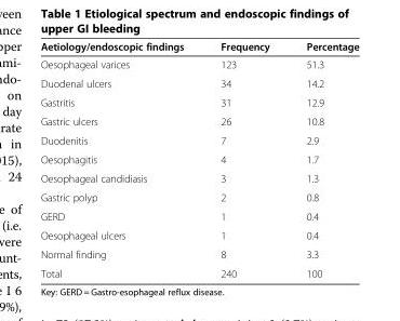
<table><thead><tr><td>Aetiology/endoscopic findings</td><td>Frequency</td><td>Percentage</td></tr></thead><tbody><tr><td>Oesophageal varices</td><td>123</td><td>51.3</td></tr><tr><td>Duodenal ulcers</td><td>34</td><td>14.2</td></tr><tr><td>Gastritis</td><td>31</td><td>12.9</td></tr><tr><td>Gastric ulcers</td><td>26</td><td>10.8</td></tr><tr><td>Duodenitis</td><td>7</td><td>2.9</td></tr><tr><td>Oesophagitis</td><td>4</td><td>1.7</td></tr><tr><td>Oesophageal candidiasis</td><td>3</td><td>1.3</td></tr><tr><td>Gastric polyp</td><td>2</td><td>0.8</td></tr><tr><td>GERD</td><td>1</td><td>0.4</td></tr><tr><td>Oesophageal ulcers</td><td>1</td><td>0.4</td></tr><tr><td>Normal finding</td><td>8</td><td>3.3</td></tr><tr><td>Total</td><td>240</td><td>100</td></tr></tbody></table>